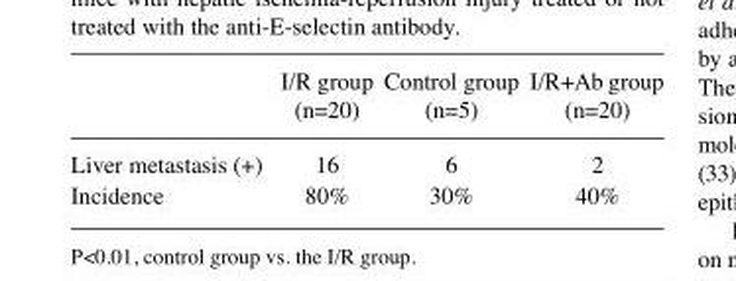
<table><thead><tr><td></td><td>I/R group (n=20)</td><td>Control group (n=5)</td><td>I/R+Ab group (n=20)</td></tr></thead><tbody><tr><td>Liver metastasis (+)</td><td>16</td><td>6</td><td>2</td></tr><tr><td>Incidence</td><td>80%</td><td>30%</td><td>40%</td></tr></tbody></table>